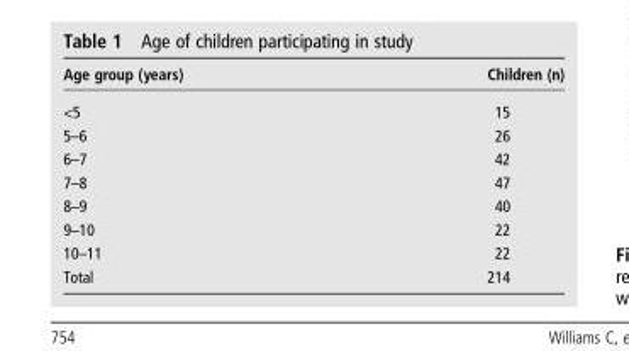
<table><thead><tr><td>Age group (years)</td><td>Children (n)</td></tr></thead><tbody><tr><td>&lt;5</td><td>15</td></tr><tr><td>5–6</td><td>26</td></tr><tr><td>6–7</td><td>42</td></tr><tr><td>7–8</td><td>47</td></tr><tr><td>8–9</td><td>40</td></tr><tr><td>9–10</td><td>22</td></tr><tr><td>10–11</td><td>22</td></tr><tr><td>Total</td><td>214</td></tr></tbody></table>